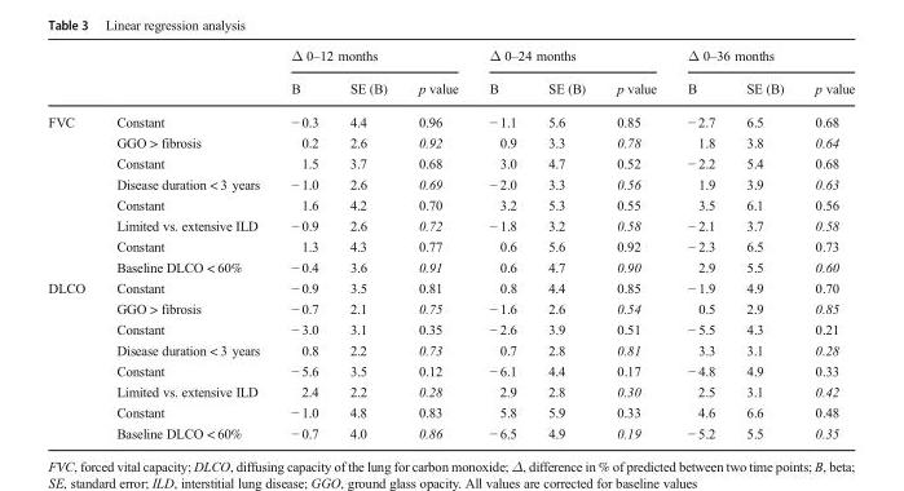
<table><thead><tr><td rowspan="2"></td><td rowspan="2"></td><td colspan="3">Δ 0–12 months</td><td colspan="3">Δ 0–24 months</td><td colspan="3">Δ 0–36 months</td></tr><tr><td>B</td><td>SE (B)</td><td>p value</td><td>B</td><td>SE (B)</td><td>p value</td><td>B</td><td>SE (B)</td><td>p value</td></tr></thead><tbody><tr><td rowspan="8">FVC</td><td>Constant</td><td>− 0.3</td><td>4.4</td><td>0.96</td><td>− 1.1</td><td>5.6</td><td>0.85</td><td>− 2.7</td><td>6.5</td><td>0.68</td></tr><tr><td>GGO &gt; fibrosis</td><td>0.2</td><td>2.6</td><td>0.92</td><td>0.9</td><td>3.3</td><td>0.78</td><td>1.8</td><td>3.8</td><td>0.64</td></tr><tr><td>Constant</td><td>1.5</td><td>3.7</td><td>0.68</td><td>3.0</td><td>4.7</td><td>0.52</td><td>− 2.2</td><td>5.4</td><td>0.68</td></tr><tr><td>Disease duration &lt; 3 years</td><td>− 1.0</td><td>2.6</td><td>0.69</td><td>− 2.0</td><td>3.3</td><td>0.56</td><td>1.9</td><td>3.9</td><td>0.63</td></tr><tr><td>Constant</td><td>1.6</td><td>4.2</td><td>0.70</td><td>3.2</td><td>5.3</td><td>0.55</td><td>3.5</td><td>6.1</td><td>0.56</td></tr><tr><td>Limited vs. extensive ILD</td><td>− 0.9</td><td>2.6</td><td>0.72</td><td>− 1.8</td><td>3.2</td><td>0.58</td><td>− 2.1</td><td>3.7</td><td>0.58</td></tr><tr><td>Constant</td><td>1.3</td><td>4.3</td><td>0.77</td><td>0.6</td><td>5.6</td><td>0.92</td><td>− 2.3</td><td>6.5</td><td>0.73</td></tr><tr><td>Baseline DLCO &lt; 60%</td><td>− 0.4</td><td>3.6</td><td>0.91</td><td>0.6</td><td>4.7</td><td>0.90</td><td>2.9</td><td>5.5</td><td>0.60</td></tr><tr><td rowspan="8">DLCO</td><td>Constant</td><td>− 0.9</td><td>3.5</td><td>0.81</td><td>0.8</td><td>4.4</td><td>0.85</td><td>− 1.9</td><td>4.9</td><td>0.70</td></tr><tr><td>GGO &gt; fibrosis</td><td>− 0.7</td><td>2.1</td><td>0.75</td><td>− 1.6</td><td>2.6</td><td>0.54</td><td>0.5</td><td>2.9</td><td>0.85</td></tr><tr><td>Constant</td><td>− 3.0</td><td>3.1</td><td>0.35</td><td>− 2.6</td><td>3.9</td><td>0.51</td><td>− 5.5</td><td>4.3</td><td>0.21</td></tr><tr><td>Disease duration &lt; 3 years</td><td>0.8</td><td>2.2</td><td>0.73</td><td>0.7</td><td>2.8</td><td>0.81</td><td>3.3</td><td>3.1</td><td>0.28</td></tr><tr><td>Constant</td><td>− 5.6</td><td>3.5</td><td>0.12</td><td>− 6.1</td><td>4.4</td><td>0.17</td><td>− 4.8</td><td>4.9</td><td>0.33</td></tr><tr><td>Limited vs. extensive ILD</td><td>2.4</td><td>2.2</td><td>0.28</td><td>2.9</td><td>2.8</td><td>0.30</td><td>2.5</td><td>3.1</td><td>0.42</td></tr><tr><td>Constant</td><td>− 1.0</td><td>4.8</td><td>0.83</td><td>5.8</td><td>5.9</td><td>0.33</td><td>4.6</td><td>6.6</td><td>0.48</td></tr><tr><td>Baseline DLCO &lt; 60%</td><td>− 0.7</td><td>4.0</td><td>0.86</td><td>− 6.5</td><td>4.9</td><td>0.19</td><td>− 5.2</td><td>5.5</td><td>0.35</td></tr></tbody></table>